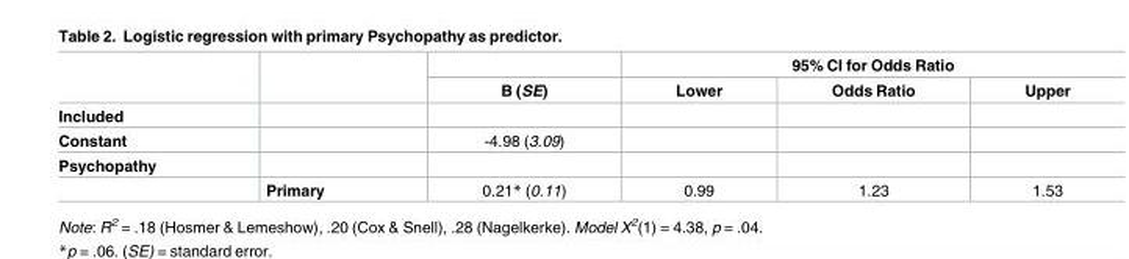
<table><thead><tr><td rowspan="2"></td><td rowspan="2"></td><td rowspan="2">B (SE)</td><td colspan="3">95% CI for Odds Ratio</td></tr><tr><td>Lower</td><td>Odds Ratio</td><td>Upper</td></tr></thead><tbody><tr><td colspan="6">Included</td></tr><tr><td>Constant</td><td></td><td>-4.98 (3.09)</td><td></td><td></td><td></td></tr><tr><td colspan="6">Psychopathy</td></tr><tr><td></td><td>Primary</td><td>0.21* (0.11)</td><td>0.99</td><td>1.23</td><td>1.53</td></tr></tbody></table>